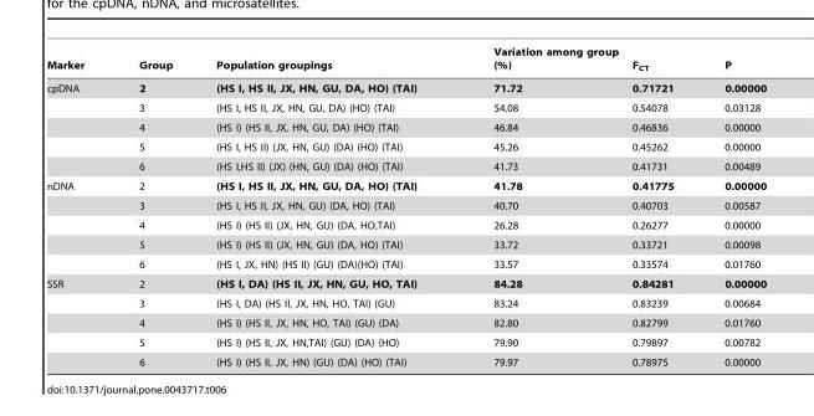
<table><thead><tr><td>Marker</td><td>Group</td><td>Population groupings</td><td>Variation among group (%)</td><td>F<sub>CT</sub></td><td>P</td></tr></thead><tbody><tr><td rowspan="5">cpDNA</td><td>2</td><td>(HS I, HS II, JX, HN, GU, DA, HO) (TAI)</td><td>71.72</td><td>0.71721</td><td>0.00000</td></tr><tr><td>3</td><td>(HS I, HS II, JX, HN, GU, DA) (HO) (TAI)</td><td>54.08</td><td>0.54078</td><td>0.03128</td></tr><tr><td>4</td><td>(HS I) (HS II, JX, HN, GU, DA) (HO) (TAI)</td><td>46.84</td><td>0.46836</td><td>0.00000</td></tr><tr><td>5</td><td>(HS I, HS II) (JX, HN, GU) (DA) (HO) (TAI)</td><td>45.26</td><td>0.45262</td><td>0.00000</td></tr><tr><td>6</td><td>(HS I,HS II) (JX) (HN, GU) (DA) (HO) (TAI)</td><td>41.73</td><td>0.41731</td><td>0.00489</td></tr><tr><td rowspan="5">nDNA</td><td>2</td><td>(HS I, HS II, JX, HN, GU, DA, HO) (TAI)</td><td>41.78</td><td>0.41775</td><td>0.00000</td></tr><tr><td>3</td><td>(HS I, HS II, JX, HN, GU) (DA, HO) (TAI)</td><td>40.70</td><td>0.40703</td><td>0.00587</td></tr><tr><td>4</td><td>(HS I) (HS II) (JX, HN, GU) (DA, HO,TAI)</td><td>26.28</td><td>0.26277</td><td>0.00000</td></tr><tr><td>5</td><td>(HS I) (HS II) (JX, HN, GU) (DA, HO) (TAI)</td><td>33.72</td><td>0.33721</td><td>0.00098</td></tr><tr><td>6</td><td>(HS I, JX, HN) (HS II) (GU) (DA)(HO) (TAI)</td><td>33.57</td><td>0.33574</td><td>0.01760</td></tr><tr><td rowspan="5">SSR</td><td>2</td><td>(HS I, DA) (HS II, JX, HN, GU, HO, TAI)</td><td>84.28</td><td>0.84281</td><td>0.00000</td></tr><tr><td>3</td><td>(HS I, DA) (HS II, JX, HN, HO, TAI) (GU)</td><td>83.24</td><td>0.83239</td><td>0.00684</td></tr><tr><td>4</td><td>(HS I) (HS II, JX, HN, HO, TAI) (GU) (DA)</td><td>82.80</td><td>0.82799</td><td>0.01760</td></tr><tr><td>5</td><td>(HS I) (HS II, JX, HN,TAI) (GU) (DA) (HO)</td><td>79.90</td><td>0.79897</td><td>0.00782</td></tr><tr><td>6</td><td>(HS I) (HS II, JX, HN) (GU) (DA) (HO) (TAI)</td><td>79.97</td><td>0.78975</td><td>0.00000</td></tr></tbody></table>